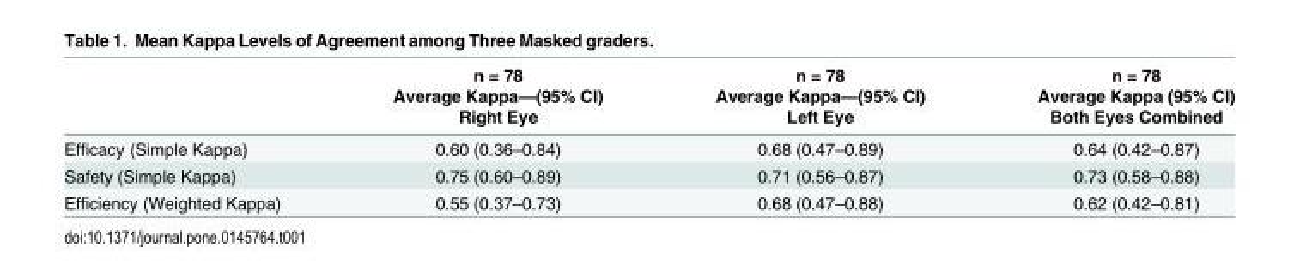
<table><thead><tr><td rowspan="3"></td><td rowspan="3">n = 78 Average Kappa—(95% CI) Right Eye</td><td rowspan="3">n = 78 Average Kappa—(95% CI) Left Eye</td><td rowspan="3">n = 78 Average Kappa (95% CI) Both Eyes Combined</td></tr><tr></tr><tr></tr></thead><tbody><tr><td>Efficacy (Simple Kappa)</td><td>0.60 (0.36–0.84)</td><td>0.68 (0.47–0.89)</td><td>0.64 (0.42–0.87)</td></tr><tr><td>Safety (Simple Kappa)</td><td>0.75 (0.60–0.89)</td><td>0.71 (0.56–0.87)</td><td>0.73 (0.58–0.88)</td></tr><tr><td>Efficiency (Weighted Kappa)</td><td>0.55 (0.37–0.73)</td><td>0.68 (0.47–0.88)</td><td>0.62 (0.42–0.81)</td></tr></tbody></table>